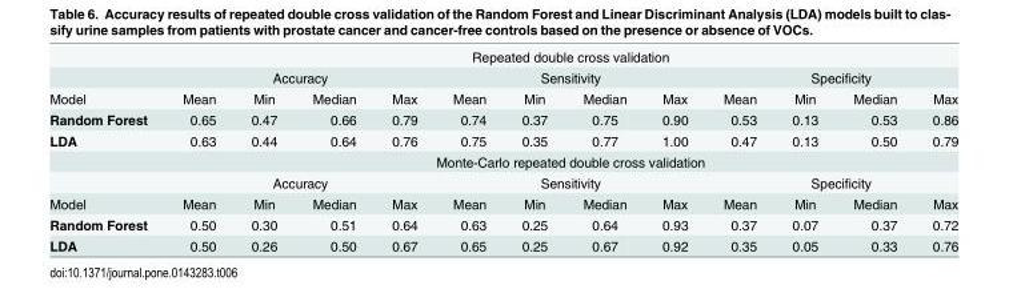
<table><thead><tr><td rowspan="3">Model</td><td colspan="12">Repeated double cross validation</td></tr><tr><td colspan="4">Accuracy</td><td colspan="4">Sensitivity</td><td colspan="4">Specificity</td></tr><tr><td>Mean</td><td>Min</td><td>Median</td><td>Max</td><td>Mean</td><td>Min</td><td>Median</td><td>Max</td><td>Mean</td><td>Min</td><td>Median</td><td>Max</td></tr></thead><tbody><tr><td>Random Forest</td><td>0.65</td><td>0.47</td><td>0.66</td><td>0.79</td><td>0.74</td><td>0.37</td><td>0.75</td><td>0.90</td><td>0.53</td><td>0.13</td><td>0.53</td><td>0.86</td></tr><tr><td rowspan="3">LDA</td><td>0.63</td><td>0.44</td><td>0.64</td><td>0.76</td><td>0.75</td><td>0.35</td><td>0.77</td><td>1.00</td><td>0.47</td><td>0.13</td><td>0.50</td><td>0.79</td></tr><tr><td colspan="12">Monte-Carlo repeated double cross validation</td></tr><tr><td colspan="4">Accuracy</td><td colspan="4">Sensitivity</td><td colspan="4">Specificity</td></tr><tr><td>Model</td><td>Mean</td><td>Min</td><td>Median</td><td>Max</td><td>Mean</td><td>Min</td><td>Median</td><td>Max</td><td>Mean</td><td>Min</td><td>Median</td><td>Max</td></tr><tr><td>Random Forest</td><td>0.50</td><td>0.30</td><td>0.51</td><td>0.64</td><td>0.63</td><td>0.25</td><td>0.64</td><td>0.93</td><td>0.37</td><td>0.07</td><td>0.37</td><td>0.72</td></tr><tr><td>LDA</td><td>0.50</td><td>0.26</td><td>0.50</td><td>0.67</td><td>0.65</td><td>0.25</td><td>0.67</td><td>0.92</td><td>0.35</td><td>0.05</td><td>0.33</td><td>0.76</td></tr></tbody></table>